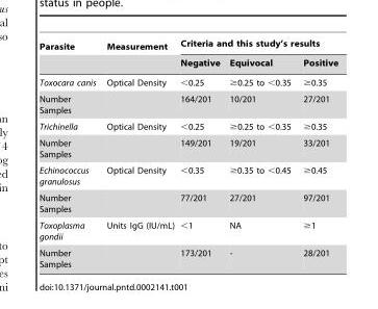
<table><thead><tr><td rowspan="2">Parasite</td><td rowspan="2">Measurement</td><td colspan="3">Criteria and this study’s results</td></tr><tr><td>Negative</td><td>Equivocal</td><td>Positive</td></tr></thead><tbody><tr><td>Toxocara canis</td><td>Optical Density</td><td>&lt;0.25</td><td>≥0.25 to &lt;0.35</td><td>≥0.35</td></tr><tr><td>Number Samples</td><td></td><td>164/201</td><td>10/201</td><td>27/201</td></tr><tr><td>Trichinella</td><td>Optical Density</td><td>&lt;0.25</td><td>≥0.25 to &lt;0.35</td><td>≥0.35</td></tr><tr><td>Number Samples</td><td></td><td>149/201</td><td>19/201</td><td>33/201</td></tr><tr><td>Echinococcus granulosus</td><td>Optical Density</td><td>&lt;0.35</td><td>≥0.35 to &lt;0.45</td><td>≥0.45</td></tr><tr><td>Number Samples</td><td></td><td>77/201</td><td>27/201</td><td>97/201</td></tr><tr><td>Toxoplasma gondii</td><td>Units IgG (IU/mL)</td><td>&lt;1</td><td>NA</td><td>≥1</td></tr><tr><td>Number Samples</td><td></td><td>173/201</td><td>-</td><td>28/201</td></tr></tbody></table>